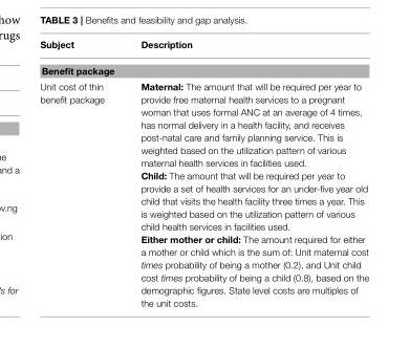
<table><thead><tr><td>Subject</td><td>Description</td></tr></thead><tbody><tr><td colspan="2">Benefit package</td></tr><tr><td>Unit cost of thin benefit package</td><td>Maternal: The amount that will be required per year to provide free maternal health services to a pregnant woman that uses formal ANC at an average of 4 times, has normal delivery in a health facility, and receives post-natal care and family planning service. This is weighted based on the utilization pattern of various maternal health services in facilities used. Child: The amount that will be required per year to provide a set of health services for an under-five year old child that visits the health facility three times a year. This is weighted based on the utilization pattern of various child health services in facilities used. Either mother or child: The amount required for either a mother or child which is the sum of: Unit maternal cost times probability of being a mother (0.2), and Unit child cost times probability of being a child (0.8), based on the demographic figures. State level costs are multiples of the unit costs.</td></tr></tbody></table>